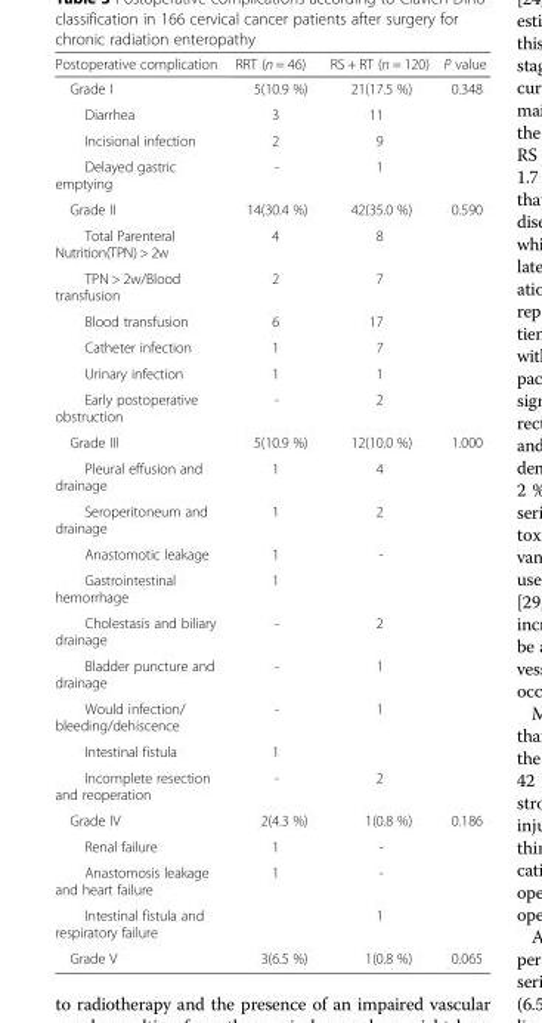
<table><thead><tr><td>Postoperative complication</td><td>RRT (n = 46)</td><td>RS + RT (n = 120)</td><td>P value</td></tr></thead><tbody><tr><td>Grade I</td><td>5(10.9 %)</td><td>21(17.5 %)</td><td>0.348</td></tr><tr><td>Diarrhea</td><td>3</td><td>11</td><td></td></tr><tr><td>Incisional infection</td><td>2</td><td>9</td><td></td></tr><tr><td>Delayed gastric emptying</td><td>-</td><td>1</td><td></td></tr><tr><td>Grade II</td><td>14(30.4 %)</td><td>42(35.0 %)</td><td>0.590</td></tr><tr><td>Total Parenteral Nutrition(TPN) &gt; 2w</td><td>4</td><td>8</td><td></td></tr><tr><td>TPN &gt; 2w/Blood transfusion</td><td>2</td><td>7</td><td></td></tr><tr><td>Blood transfusion</td><td>6</td><td>17</td><td></td></tr><tr><td>Catheter infection</td><td>1</td><td>7</td><td></td></tr><tr><td>Urinary infection</td><td>1</td><td>1</td><td></td></tr><tr><td>Early postoperative obstruction</td><td>-</td><td>2</td><td></td></tr><tr><td>Grade III</td><td>5(10.9 %)</td><td>12(10.0 %)</td><td>1.000</td></tr><tr><td>Pleural effusion and drainage</td><td>1</td><td>4</td><td></td></tr><tr><td>Seroperitoneum and drainage</td><td>1</td><td>2</td><td></td></tr><tr><td>Anastomotic leakage</td><td>1</td><td>-</td><td></td></tr><tr><td>Gastrointestinal hemorrhage</td><td>1</td><td></td><td></td></tr><tr><td>Cholestasis and biliary drainage</td><td>-</td><td>2</td><td></td></tr><tr><td>Bladder puncture and drainage</td><td>-</td><td>1</td><td></td></tr><tr><td>Would infection/ bleeding/dehiscence</td><td>-</td><td>1</td><td></td></tr><tr><td>Intestinal fistula</td><td>1</td><td></td><td></td></tr><tr><td>Incomplete resection and reoperation</td><td>-</td><td>2</td><td></td></tr><tr><td>Grade IV</td><td>2(4.3 %)</td><td>1(0.8 %)</td><td>0.186</td></tr><tr><td>Renal failure</td><td>1</td><td>-</td><td></td></tr><tr><td>Anastomosis leakage and heart failure</td><td>1</td><td>-</td><td></td></tr><tr><td>Intestinal fistula and respiratory failure</td><td></td><td>1</td><td></td></tr><tr><td>Grade V</td><td>3(6.5 %)</td><td>1(0.8 %)</td><td>0.065</td></tr></tbody></table>